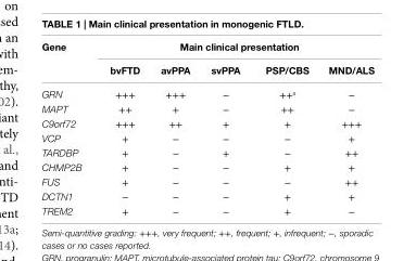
<table><thead><tr><td rowspan="2">Gene</td><td colspan="5">Main clinical presentation</td></tr><tr><td>bvFTD</td><td>avPPA</td><td>svPPA</td><td>PSP/CBS</td><td>MND/ALS</td></tr></thead><tbody><tr><td>GRN</td><td>+++</td><td>+++</td><td>−</td><td>++<sup>a</sup></td><td>−</td></tr><tr><td>MAPT</td><td>++</td><td>+</td><td>−</td><td>++</td><td>−</td></tr><tr><td>C9orf72</td><td>+++</td><td>++</td><td>+</td><td>+</td><td>+++</td></tr><tr><td>VCP</td><td>+</td><td>−</td><td>−</td><td>−</td><td>+</td></tr><tr><td>TARDBP</td><td>+</td><td>−</td><td>+</td><td>−</td><td>++</td></tr><tr><td>CHMP2B</td><td>+</td><td>−</td><td>−</td><td>+</td><td>+</td></tr><tr><td>FUS</td><td>+</td><td>−</td><td>−</td><td>−</td><td>++</td></tr><tr><td>DCTN1</td><td>−</td><td>−</td><td>−</td><td>+</td><td>+</td></tr><tr><td>TREM2</td><td>+</td><td>−</td><td>−</td><td>+</td><td>−</td></tr></tbody></table>